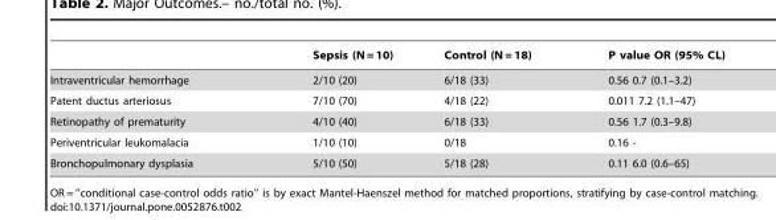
<table><thead><tr><td></td><td>Sepsis (N = 10)</td><td>Control (N = 18)</td><td>P value OR (95% CL)</td></tr></thead><tbody><tr><td>Intraventricular hemorrhage</td><td>2/10 (20)</td><td>6/18 (33)</td><td>0.56 0.7 (0.1–3.2)</td></tr><tr><td>Patent ductus arteriosus</td><td>7/10 (70)</td><td>4/18 (22)</td><td>0.011 7.2 (1.1–47)</td></tr><tr><td>Retinopathy of prematurity</td><td>4/10 (40)</td><td>6/18 (33)</td><td>0.56 1.7 (0.3–9.8)</td></tr><tr><td>Periventricular leukomalacia</td><td>1/10 (10)</td><td>0/18</td><td>0.16 -</td></tr><tr><td>Bronchopulmonary dysplasia</td><td>5/10 (50)</td><td>5/18 (28)</td><td>0.11 6.0 (0.6–65)</td></tr></tbody></table>